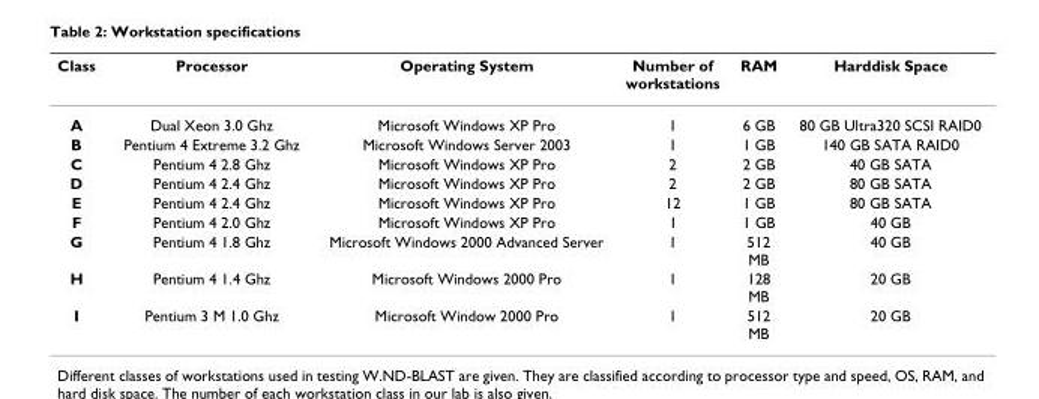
<table><thead><tr><td>Class</td><td>Processor</td><td>Operating System</td><td>Number of workstations</td><td>RAM</td><td>Harddisk Space</td></tr></thead><tbody><tr><td>A</td><td>Dual Xeon 3.0 Ghz</td><td>Microsoft Windows XP Pro</td><td>1</td><td>6 GB</td><td>80 GB Ultra320 SCSI RAID0</td></tr><tr><td>B</td><td>Pentium 4 Extreme 3.2 Ghz</td><td>Microsoft Windows Server 2003</td><td>1</td><td>1 GB</td><td>140 GB SATA RAID0</td></tr><tr><td>C</td><td>Pentium 4 2.8 Ghz</td><td>Microsoft Windows XP Pro</td><td>2</td><td>2 GB</td><td>40 GB SATA</td></tr><tr><td>D</td><td>Pentium 4 2.4 Ghz</td><td>Microsoft Windows XP Pro</td><td>2</td><td>2 GB</td><td>80 GB SATA</td></tr><tr><td>E</td><td>Pentium 4 2.4 Ghz</td><td>Microsoft Windows XP Pro</td><td>12</td><td>1 GB</td><td>80 GB SATA</td></tr><tr><td>F</td><td>Pentium 4 2.0 Ghz</td><td>Microsoft Windows XP Pro</td><td>1</td><td>1 GB</td><td>40 GB</td></tr><tr><td>G</td><td>Pentium 4 1.8 Ghz</td><td>Microsoft Windows 2000 Advanced Server</td><td>1</td><td>512 MB</td><td>40 GB</td></tr><tr><td>H</td><td>Pentium 4 1.4 Ghz</td><td>Microsoft Windows 2000 Pro</td><td>1</td><td>128 MB</td><td>20 GB</td></tr><tr><td>I</td><td>Pentium 3 M 1.0 Ghz</td><td>Microsoft Window 2000 Pro</td><td>1</td><td>512 MB</td><td>20 GB</td></tr></tbody></table>